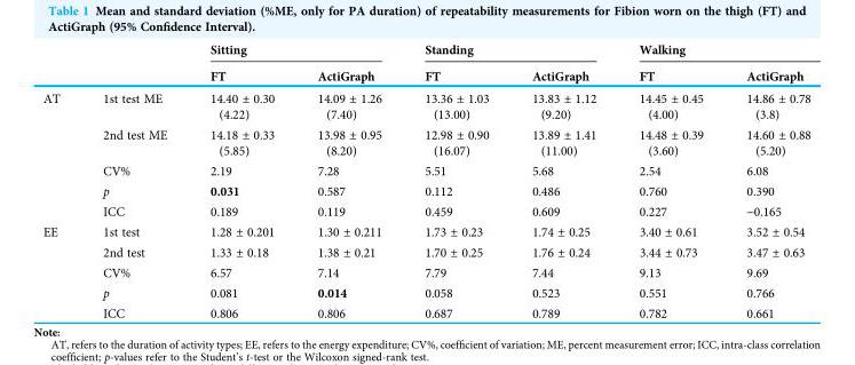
<table><thead><tr><td rowspan="2"></td><td rowspan="2"></td><td colspan="2">Sitting</td><td colspan="2">Standing</td><td colspan="2">Walking</td></tr><tr><td>FT</td><td>ActiGraph</td><td>FT</td><td>ActiGraph</td><td>FT</td><td>ActiGraph</td></tr></thead><tbody><tr><td rowspan="5">AT</td><td>1st test ME</td><td>14.40 ± 0.30 (4.22)</td><td>14.09 ± 1.26 (7.40)</td><td>13.36 ± 1.03 (13.00)</td><td>13.83 ± 1.12 (9.20)</td><td>14.45 ± 0.45 (4.00)</td><td>14.86 ± 0.78 (3.8)</td></tr><tr><td>2nd test ME</td><td>14.18 ± 0.33 (5.85)</td><td>13.98 ± 0.95 (8.20)</td><td>12.98 ± 0.90 (16.07)</td><td>13.89 ± 1.41 (11.00)</td><td>14.48 ± 0.39 (3.60)</td><td>14.60 ± 0.88 (5.20)</td></tr><tr><td>CV%</td><td>2.19</td><td>7.28</td><td>5.51</td><td>5.68</td><td>2.54</td><td>6.08</td></tr><tr><td>p</td><td>0.031</td><td>0.587</td><td>0.112</td><td>0.486</td><td>0.760</td><td>0.390</td></tr><tr><td>ICC</td><td>0.189</td><td>0.119</td><td>0.459</td><td>0.609</td><td>0.227</td><td>-0.165</td></tr><tr><td rowspan="5">EE</td><td>1st test</td><td>1.28 ± 0.201</td><td>1.30 ± 0.211</td><td>1.73 ± 0.23</td><td>1.74 ± 0.25</td><td>3.40 ± 0.61</td><td>3.52 ± 0.54</td></tr><tr><td>2nd test</td><td>1.33 ± 0.18</td><td>1.38 ± 0.21</td><td>1.70 ± 0.25</td><td>1.76 ± 0.24</td><td>3.44 ± 0.73</td><td>3.47 ± 0.63</td></tr><tr><td>CV%</td><td>6.57</td><td>7.14</td><td>7.79</td><td>7.44</td><td>9.13</td><td>9.69</td></tr><tr><td>p</td><td>0.081</td><td>0.014</td><td>0.058</td><td>0.523</td><td>0.551</td><td>0.766</td></tr><tr><td>ICC</td><td>0.806</td><td>0.806</td><td>0.687</td><td>0.789</td><td>0.782</td><td>0.661</td></tr></tbody></table>